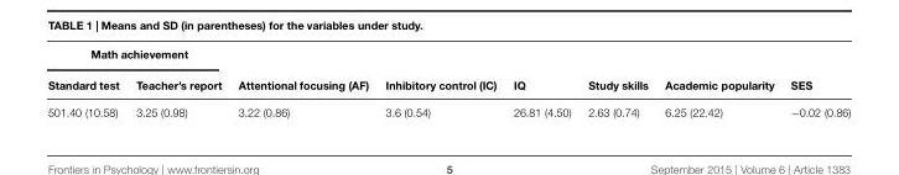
<table><thead><tr><td colspan="2">Math achievement</td><td rowspan="2">Attentional focusing (AF)</td><td rowspan="2">Inhibitory control (IC)</td><td rowspan="2">IQ</td><td rowspan="2">Study skills</td><td rowspan="2">Academic popularity</td><td rowspan="2">SES</td></tr><tr><td>Standard test</td><td>Teacher’s report</td></tr></thead><tbody><tr><td>501.40 (10.58)</td><td>3.25 (0.98)</td><td>3.22 (0.86)</td><td>3.6 (0.54)</td><td>26.81 (4.50)</td><td>2.63 (0.74)</td><td>6.25 (22.42)</td><td>−0.02 (0.86)</td></tr></tbody></table>